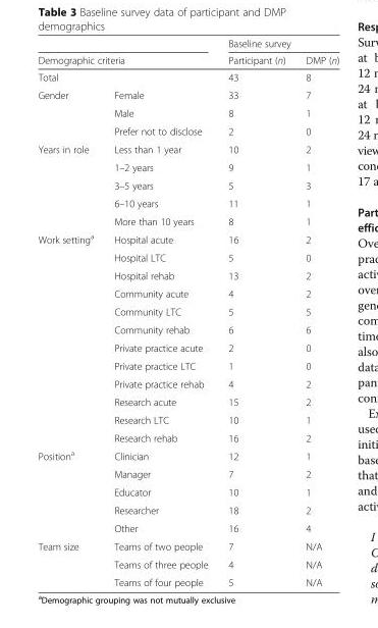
<table><thead><tr><td></td><td></td><td colspan="2">Baseline survey</td></tr><tr><td colspan="2">Demographic criteria</td><td>Participant (n)</td><td>DMP (n)</td></tr></thead><tbody><tr><td colspan="2">Total</td><td>43</td><td>8</td></tr><tr><td rowspan="3">Gender</td><td>Female</td><td>33</td><td>7</td></tr><tr><td>Male</td><td>8</td><td>1</td></tr><tr><td>Prefer not to disclose</td><td>2</td><td>0</td></tr><tr><td rowspan="5">Years in role</td><td>Less than 1 year</td><td>10</td><td>2</td></tr><tr><td>1–2 years</td><td>9</td><td>1</td></tr><tr><td>3–5 years</td><td>5</td><td>3</td></tr><tr><td>6–10 years</td><td>11</td><td>1</td></tr><tr><td>More than 10 years</td><td>8</td><td>1</td></tr><tr><td rowspan="12">Work setting<sup>a</sup></td><td>Hospital acute</td><td>16</td><td>2</td></tr><tr><td>Hospital LTC</td><td>5</td><td>0</td></tr><tr><td>Hospital rehab</td><td>13</td><td>2</td></tr><tr><td>Community acute</td><td>4</td><td>2</td></tr><tr><td>Community LTC</td><td>5</td><td>5</td></tr><tr><td>Community rehab</td><td>6</td><td>6</td></tr><tr><td>Private practice acute</td><td>2</td><td>0</td></tr><tr><td>Private practice LTC</td><td>1</td><td>0</td></tr><tr><td>Private practice rehab</td><td>4</td><td>2</td></tr><tr><td>Research acute</td><td>15</td><td>2</td></tr><tr><td>Research LTC</td><td>10</td><td>1</td></tr><tr><td>Research rehab</td><td>16</td><td>2</td></tr><tr><td rowspan="5">Position<sup>a</sup></td><td>Clinician</td><td>12</td><td>1</td></tr><tr><td>Manager</td><td>7</td><td>2</td></tr><tr><td>Educator</td><td>10</td><td>1</td></tr><tr><td>Researcher</td><td>18</td><td>2</td></tr><tr><td>Other</td><td>16</td><td>4</td></tr><tr><td rowspan="3">Team size</td><td>Teams of two people</td><td>7</td><td>N/A</td></tr><tr><td>Teams of three people</td><td>4</td><td>N/A</td></tr><tr><td>Teams of four people</td><td>5</td><td>N/A</td></tr></tbody></table>